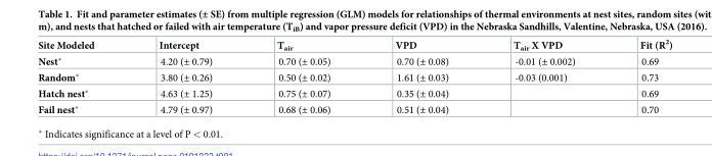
<table><thead><tr><td>Site Modeled</td><td>Intercept</td><td>T<sub>air</sub></td><td>VPD</td><td>T<sub>air</sub> X VPD</td><td>Fit (R<sup>2</sup>)</td></tr></thead><tbody><tr><td>Nest*</td><td>4.20 (± 0.79)</td><td>0.70 (± 0.05)</td><td>0.70 (± 0.08)</td><td>-0.01 (± 0.002)</td><td>0.69</td></tr><tr><td>Random*</td><td>3.80 (± 0.26)</td><td>0.50 (± 0.02)</td><td>1.61 (± 0.03)</td><td>-0.03 (0.001)</td><td>0.73</td></tr><tr><td>Hatch nest*</td><td>4.63 (± 1.25)</td><td>0.75 (± 0.07)</td><td>0.35 (± 0.04)</td><td></td><td>0.69</td></tr><tr><td>Fail nest*</td><td>4.79 (± 0.97)</td><td>0.68 (± 0.06)</td><td>0.51 (± 0.04)</td><td></td><td>0.70</td></tr></tbody></table>